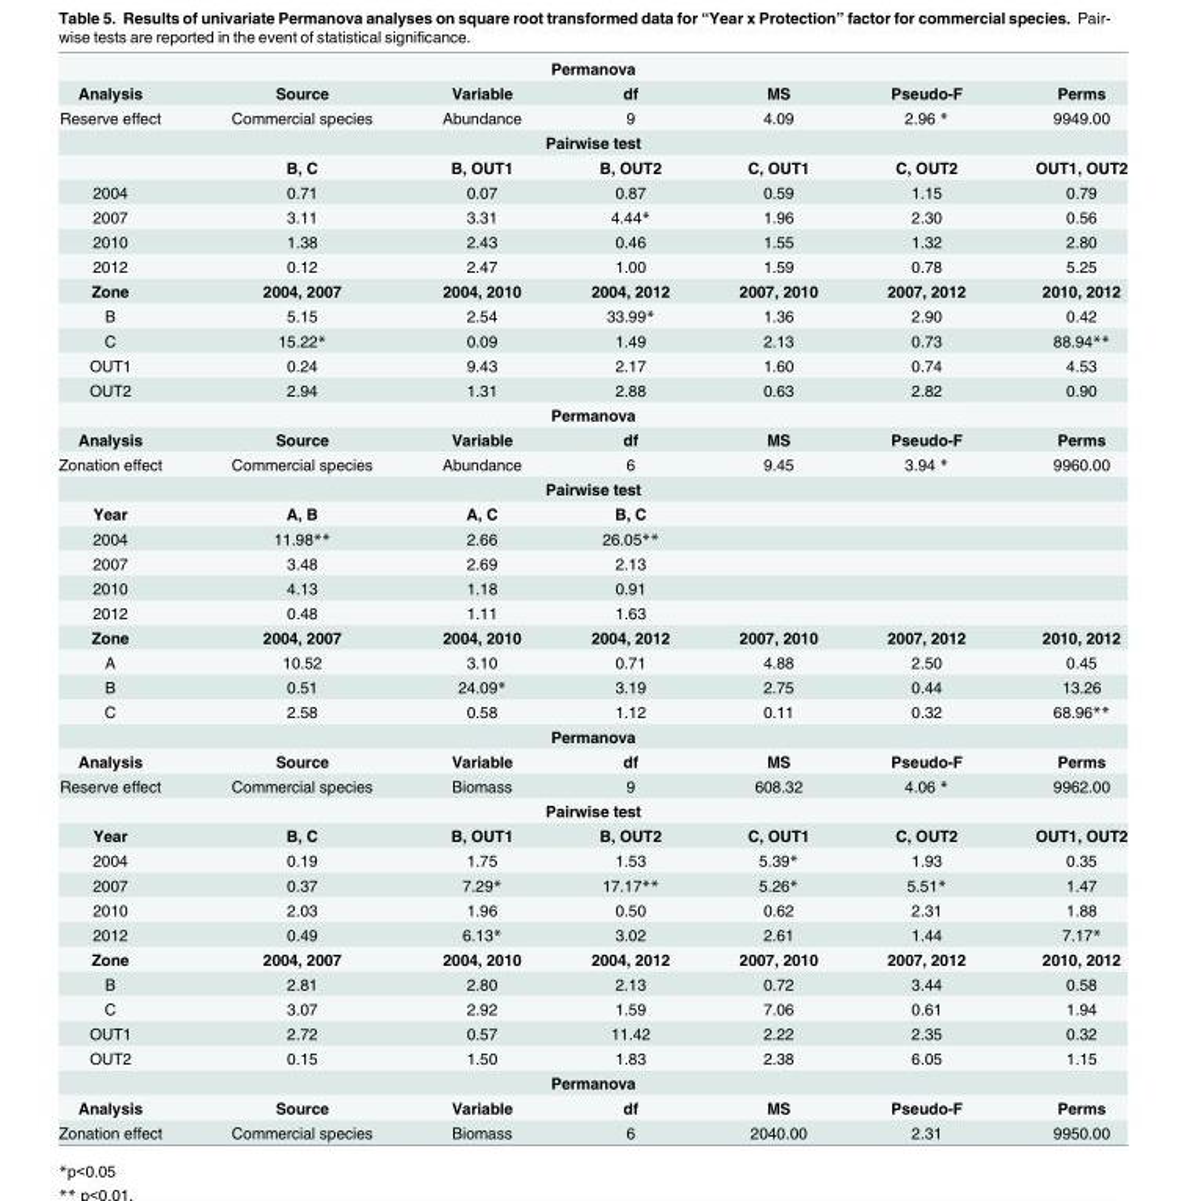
<table><tbody><tr><td colspan="7">Permanova</td></tr><tr><td>Analysis</td><td>Source</td><td>Variable</td><td>df</td><td>MS</td><td>Pseudo-F</td><td>Perms</td></tr><tr><td>Reserve effect</td><td>Commercial species</td><td>Abundance</td><td>9</td><td>4.09</td><td>2.96 *</td><td>9949.00</td></tr><tr><td colspan="7">Pairwise test</td></tr><tr><td></td><td>B, C</td><td>B, OUT1</td><td>B, OUT2</td><td>C, OUT1</td><td>C, OUT2</td><td>OUT1, OUT2</td></tr><tr><td>2004</td><td>0.71</td><td>0.07</td><td>0.87</td><td>0.59</td><td>1.15</td><td>0.79</td></tr><tr><td>2007</td><td>3.11</td><td>3.31</td><td>4.44*</td><td>1.96</td><td>2.30</td><td>0.56</td></tr><tr><td>2010</td><td>1.38</td><td>2.43</td><td>0.46</td><td>1.55</td><td>1.32</td><td>2.80</td></tr><tr><td>2012</td><td>0.12</td><td>2.47</td><td>1.00</td><td>1.59</td><td>0.78</td><td>5.25</td></tr><tr><td>Zone</td><td>2004, 2007</td><td>2004, 2010</td><td>2004, 2012</td><td>2007, 2010</td><td>2007, 2012</td><td>2010, 2012</td></tr><tr><td>B</td><td>5.15</td><td>2.54</td><td>33.99*</td><td>1.36</td><td>2.90</td><td>0.42</td></tr><tr><td>C</td><td>15.22*</td><td>0.09</td><td>1.49</td><td>2.13</td><td>0.73</td><td>88.94**</td></tr><tr><td>OUT1</td><td>0.24</td><td>9.43</td><td>2.17</td><td>1.60</td><td>0.74</td><td>4.53</td></tr><tr><td>OUT2</td><td>2.94</td><td>1.31</td><td>2.88</td><td>0.63</td><td>2.82</td><td>0.90</td></tr><tr><td colspan="7">Permanova</td></tr><tr><td>Analysis</td><td>Source</td><td>Variable</td><td>df</td><td>MS</td><td>Pseudo-F</td><td>Perms</td></tr><tr><td>Zonation effect</td><td>Commercial species</td><td>Abundance</td><td>6</td><td>9.45</td><td>3.94 *</td><td>9960.00</td></tr><tr><td colspan="7">Pairwise test</td></tr><tr><td>Year</td><td>A, B</td><td>A, C</td><td>B, C</td><td></td><td></td><td></td></tr><tr><td>2004</td><td>11.98**</td><td>2.66</td><td>26.05**</td><td></td><td></td><td></td></tr><tr><td>2007</td><td>3.48</td><td>2.69</td><td>2.13</td><td></td><td></td><td></td></tr><tr><td>2010</td><td>4.13</td><td>1.18</td><td>0.91</td><td></td><td></td><td></td></tr><tr><td>2012</td><td>0.48</td><td>1.11</td><td>1.63</td><td></td><td></td><td></td></tr><tr><td>Zone</td><td>2004, 2007</td><td>2004, 2010</td><td>2004, 2012</td><td>2007, 2010</td><td>2007, 2012</td><td>2010, 2012</td></tr><tr><td>A</td><td>10.52</td><td>3.10</td><td>0.71</td><td>4.88</td><td>2.50</td><td>0.45</td></tr><tr><td>B</td><td>0.51</td><td>24.09*</td><td>3.19</td><td>2.75</td><td>0.44</td><td>13.26</td></tr><tr><td>C</td><td>2.58</td><td>0.58</td><td>1.12</td><td>0.11</td><td>0.32</td><td>68.96**</td></tr><tr><td colspan="7">Permanova</td></tr><tr><td>Analysis</td><td>Source</td><td>Variable</td><td>df</td><td>MS</td><td>Pseudo-F</td><td>Perms</td></tr><tr><td>Reserve effect</td><td>Commercial species</td><td>Biomass</td><td>9</td><td>608.32</td><td>4.06 *</td><td>9962.00</td></tr><tr><td colspan="7">Pairwise test</td></tr><tr><td>Year</td><td>B, C</td><td>B, OUT1</td><td>B, OUT2</td><td>C, OUT1</td><td>C, OUT2</td><td>OUT1, OUT2</td></tr><tr><td>2004</td><td>0.19</td><td>1.75</td><td>1.53</td><td>5.39*</td><td>1.93</td><td>0.35</td></tr><tr><td>2007</td><td>0.37</td><td>7.29*</td><td>17.17**</td><td>5.26*</td><td>5.51*</td><td>1.47</td></tr><tr><td>2010</td><td>2.03</td><td>1.96</td><td>0.50</td><td>0.62</td><td>2.31</td><td>1.88</td></tr><tr><td>2012</td><td>0.49</td><td>6.13*</td><td>3.02</td><td>2.61</td><td>1.44</td><td>7.17*</td></tr><tr><td>Zone</td><td>2004, 2007</td><td>2004, 2010</td><td>2004, 2012</td><td>2007, 2010</td><td>2007, 2012</td><td>2010, 2012</td></tr><tr><td>B</td><td>2.81</td><td>2.80</td><td>2.13</td><td>0.72</td><td>3.44</td><td>0.58</td></tr><tr><td>C</td><td>3.07</td><td>2.92</td><td>1.59</td><td>7.06</td><td>0.61</td><td>1.94</td></tr><tr><td>OUT1</td><td>2.72</td><td>0.57</td><td>11.42</td><td>2.22</td><td>2.35</td><td>0.32</td></tr><tr><td>OUT2</td><td>0.15</td><td>1.50</td><td>1.83</td><td>2.38</td><td>6.05</td><td>1.15</td></tr><tr><td colspan="7">Permanova</td></tr><tr><td>Analysis</td><td>Source</td><td>Variable</td><td>df</td><td>MS</td><td>Pseudo-F</td><td>Perms</td></tr><tr><td>Zonation effect</td><td>Commercial species</td><td>Biomass</td><td>6</td><td>2040.00</td><td>2.31</td><td>9950.00</td></tr></tbody></table>